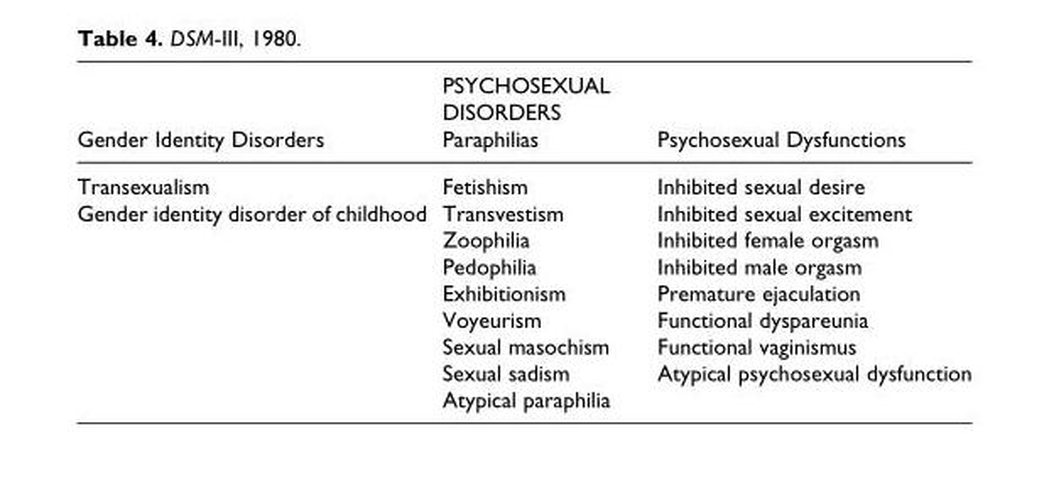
<table><thead><tr><td rowspan="2">Gender Identity Disorders</td><td rowspan="2">PSYCHOSEXUAL DISORDERS Paraphilias</td><td rowspan="2">Psychosexual Dysfunctions</td></tr><tr></tr></thead><tbody><tr><td>Transexualism</td><td>Fetishism</td><td>Inhibited sexual desire</td></tr><tr><td rowspan="8">Gender identity disorder of childhood</td><td>Transvestism</td><td>Inhibited sexual excitement</td></tr><tr><td>Zoophilia</td><td>Inhibited female orgasm</td></tr><tr><td>Pedophilia</td><td>Inhibited male orgasm</td></tr><tr><td>Exhibitionism</td><td>Premature ejaculation</td></tr><tr><td>Voyeurism</td><td>Functional dyspareunia</td></tr><tr><td>Sexual masochism</td><td>Functional vaginismus</td></tr><tr><td>Sexual sadism</td><td>Atypical psychosexual dysfunction</td></tr><tr><td>Atypical paraphilia</td><td></td></tr></tbody></table>